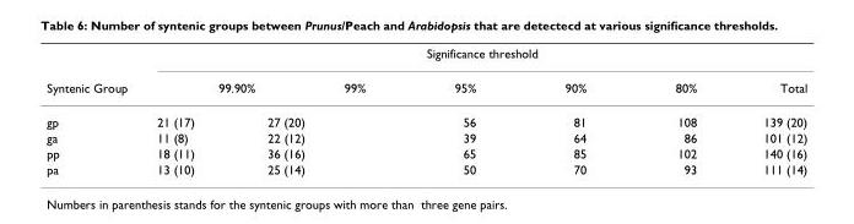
<table><thead><tr><td rowspan="2">Syntenic Group</td><td colspan="6">Significance threshold</td></tr><tr><td>99.90%</td><td>99%</td><td>95%</td><td>90%</td><td>80%</td><td>Total</td></tr></thead><tbody><tr><td>gp</td><td>21 (17)</td><td>27 (20)</td><td>56</td><td>81</td><td>108</td><td>139 (20)</td></tr><tr><td>ga</td><td>11 (8)</td><td>22 (12)</td><td>39</td><td>64</td><td>86</td><td>101 (12)</td></tr><tr><td>pp</td><td>18 (11)</td><td>36 (16)</td><td>65</td><td>85</td><td>102</td><td>140 (16)</td></tr><tr><td>pa</td><td>13 (10)</td><td>25 (14)</td><td>50</td><td>70</td><td>93</td><td>111 (14)</td></tr></tbody></table>